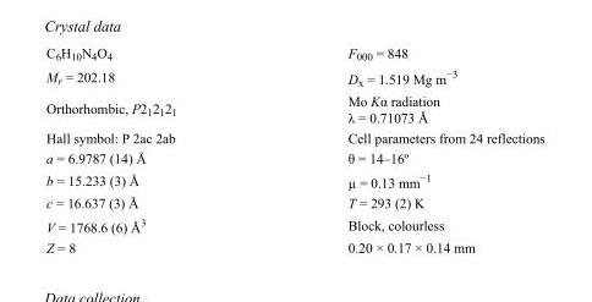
<table><tbody><tr><td>C<sub>6</sub>H<sub>10</sub>N<sub>4</sub>O<sub>4</sub></td><td>F<sub>000</sub> = 848</td></tr><tr><td>M<sub>r</sub> = 202.18</td><td>D<sub>x</sub> = 1.519 Mg m<sup>−3</sup></td></tr><tr><td>Orthorhombic, P2<sub>1</sub>2<sub>1</sub>2<sub>1</sub></td><td>Mo Kα radiation λ = 0.71073 Å</td></tr><tr><td>Hall symbol: P 2ac 2ab</td><td>Cell parameters from 24 reflections</td></tr><tr><td>a = 6.9787 (14) Å</td><td>θ = 14–16º</td></tr><tr><td>b = 15.233 (3) Å</td><td>µ = 0.13 mm<sup>−1</sup></td></tr><tr><td>c = 16.637 (3) Å</td><td>T = 293 (2) K</td></tr><tr><td>V = 1768.6 (6) Å<sup>3</sup></td><td>Block, colourless</td></tr><tr><td>Z = 8</td><td>0.20 × 0.17 × 0.14 mm</td></tr></tbody></table>